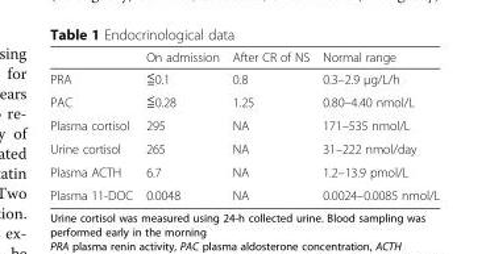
<table><thead><tr><td></td><td>On admission</td><td>After CR of NS</td><td>Normal range</td></tr></thead><tbody><tr><td>PRA</td><td>≦0.1</td><td>0.8</td><td>0.3–2.9 μg/L/h</td></tr><tr><td>PAC</td><td>≦0.28</td><td>1.25</td><td>0.80–4.40 nmol/L</td></tr><tr><td>Plasma cortisol</td><td>295</td><td>NA</td><td>171–535 nmol/L</td></tr><tr><td>Urine cortisol</td><td>265</td><td>NA</td><td>31–222 nmol/day</td></tr><tr><td>Plasma ACTH</td><td>6.7</td><td>NA</td><td>1.2–13.9 pmol/L</td></tr><tr><td>Plasma 11-DOC</td><td>0.0048</td><td>NA</td><td>0.0024–0.0085 nmol/L</td></tr></tbody></table>